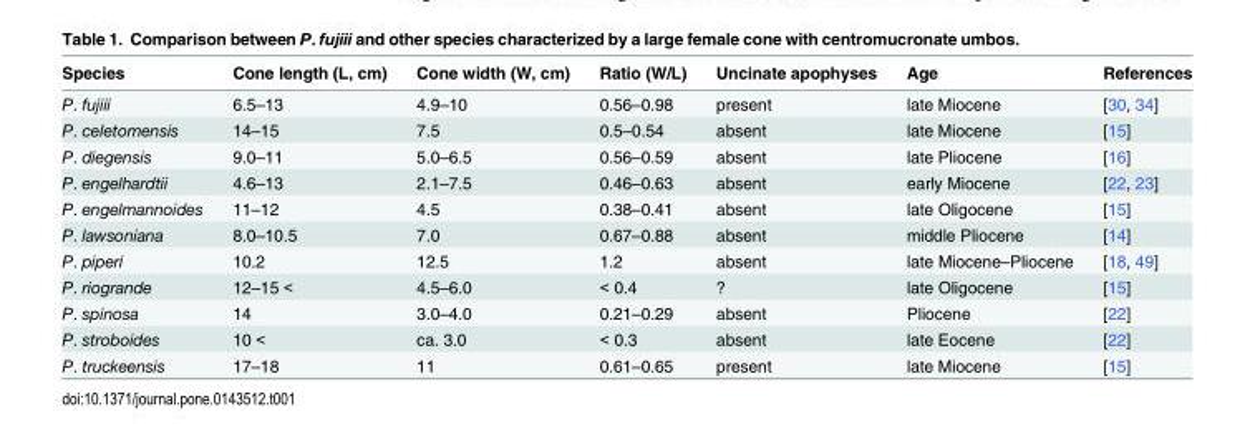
<table><thead><tr><td>Species</td><td>Cone length (L, cm)</td><td>Cone width (W, cm)</td><td>Ratio (W/L)</td><td>Uncinate apophyses</td><td>Age</td><td>References</td></tr></thead><tbody><tr><td>P. fujiii</td><td>6.5–13</td><td>4.9–10</td><td>0.56–0.98</td><td>present</td><td>late Miocene</td><td>[30, 34]</td></tr><tr><td>P. celetomensis</td><td>14–15</td><td>7.5</td><td>0.5–0.54</td><td>absent</td><td>late Miocene</td><td>[15]</td></tr><tr><td>P. diegensis</td><td>9.0–11</td><td>5.0–6.5</td><td>0.56–0.59</td><td>absent</td><td>late Pliocene</td><td>[16]</td></tr><tr><td>P. engelhardtii</td><td>4.6–13</td><td>2.1–7.5</td><td>0.46–0.63</td><td>absent</td><td>early Miocene</td><td>[22, 23]</td></tr><tr><td>P. engelmannoides</td><td>11–12</td><td>4.5</td><td>0.38–0.41</td><td>absent</td><td>late Oligocene</td><td>[15]</td></tr><tr><td>P. lawsoniana</td><td>8.0–10.5</td><td>7.0</td><td>0.67–0.88</td><td>absent</td><td>middle Pliocene</td><td>[14]</td></tr><tr><td>P. piperi</td><td>10.2</td><td>12.5</td><td>1.2</td><td>absent</td><td>late Miocene–Pliocene</td><td>[18, 49]</td></tr><tr><td>P. riogrande</td><td>12–15 &lt;</td><td>4.5–6.0</td><td>&lt; 0.4</td><td>?</td><td>late Oligocene</td><td>[15]</td></tr><tr><td>P. spinosa</td><td>14</td><td>3.0–4.0</td><td>0.21–0.29</td><td>absent</td><td>Pliocene</td><td>[22]</td></tr><tr><td>P. stroboides</td><td>10 &lt;</td><td>ca. 3.0</td><td>&lt; 0.3</td><td>absent</td><td>late Eocene</td><td>[22]</td></tr><tr><td>P. truckeensis</td><td>17–18</td><td>11</td><td>0.61–0.65</td><td>present</td><td>late Miocene</td><td>[15]</td></tr></tbody></table>